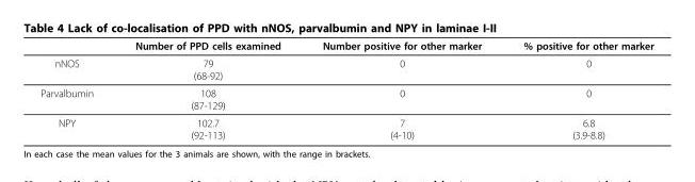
<table><thead><tr><td></td><td>Number of PPD cells examined</td><td>Number positive for other marker</td><td>% positive for other marker</td></tr></thead><tbody><tr><td>nNOS</td><td>79 (68-92)</td><td>0</td><td>0</td></tr><tr><td>Parvalbumin</td><td>108 (87-129)</td><td>0</td><td>0</td></tr><tr><td>NPY</td><td>102.7 (92-113)</td><td>7 (4-10)</td><td>6.8 (3.9-8.8)</td></tr></tbody></table>